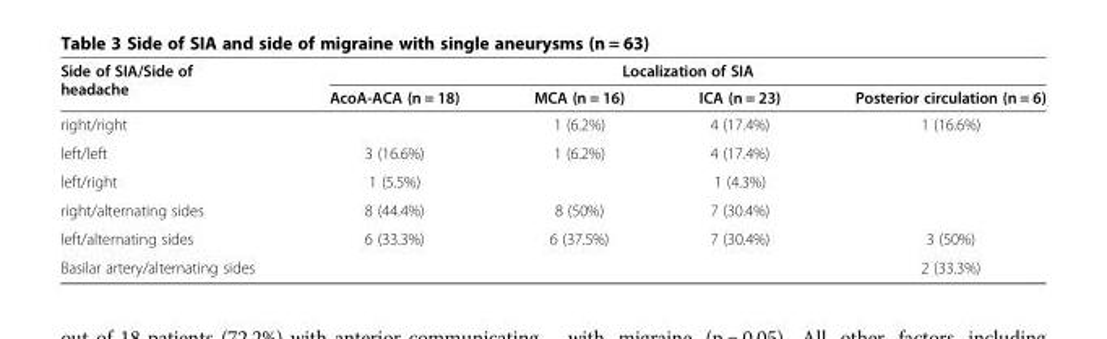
<table><thead><tr><td rowspan="2">Side of SIA/Side of headache</td><td colspan="4">Localization of SIA</td></tr><tr><td>AcoA-ACA (n = 18)</td><td>MCA (n = 16)</td><td>ICA (n = 23)</td><td>Posterior circulation (n = 6)</td></tr></thead><tbody><tr><td>right/right</td><td></td><td>1 (6.2%)</td><td>4 (17.4%)</td><td>1 (16.6%)</td></tr><tr><td>left/left</td><td>3 (16.6%)</td><td>1 (6.2%)</td><td>4 (17.4%)</td><td></td></tr><tr><td>left/right</td><td>1 (5.5%)</td><td></td><td>1 (4.3%)</td><td></td></tr><tr><td>right/alternating sides</td><td>8 (44.4%)</td><td>8 (50%)</td><td>7 (30.4%)</td><td></td></tr><tr><td>left/alternating sides</td><td>6 (33.3%)</td><td>6 (37.5%)</td><td>7 (30.4%)</td><td>3 (50%)</td></tr><tr><td>Basilar artery/alternating sides</td><td></td><td></td><td></td><td>2 (33.3%)</td></tr></tbody></table>